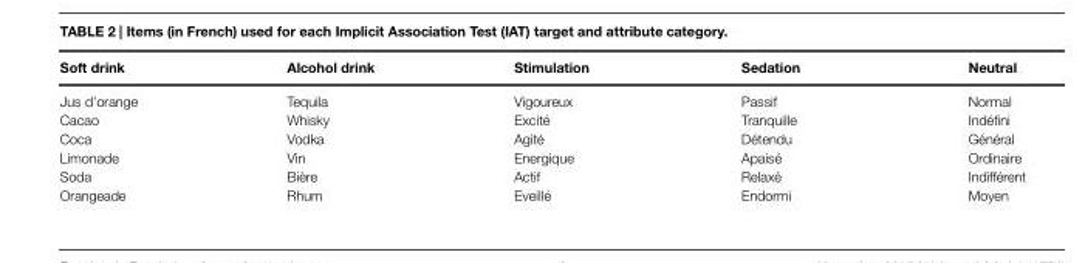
<table><thead><tr><td>Soft drink</td><td>Alcohol drink</td><td>Stimulation</td><td>Sedation</td><td>Neutral</td></tr></thead><tbody><tr><td>Jus d’orange Cacao Coca Limonade Soda Orangeade</td><td>Tequila Whisky Vodka Vin Bière Rhum</td><td>Vigoureux Excité Agité Energique Actif Eveillé</td><td>Passif Tranquille Détendu Apaisé Relaxé Endormi</td><td>Normal Indéfini Général Ordinaire Indifférent Moyen</td></tr></tbody></table>